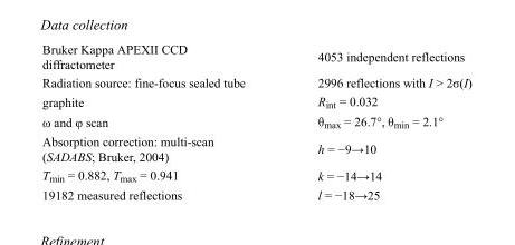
<table><tbody><tr><td>Bruker Kappa APEXII CCD diffractometer</td><td>4053 independent reflections</td></tr><tr><td>Radiation source: fine-focus sealed tube</td><td>2996 reflections with I &gt; 2σ(I)</td></tr><tr><td>graphite</td><td>R<sub>int</sub> = 0.032</td></tr><tr><td>ω and φ scan</td><td>θ<sub>max</sub> = 26.7°, θ<sub>min</sub> = 2.1°</td></tr><tr><td>Absorption correction: multi-scan (SADABS; Bruker, 2004)</td><td>h = −9→10</td></tr><tr><td>T<sub>min</sub> = 0.882, T<sub>max</sub> = 0.941</td><td>k = −14→14</td></tr><tr><td>19182 measured reflections</td><td>l = −18→25</td></tr></tbody></table>